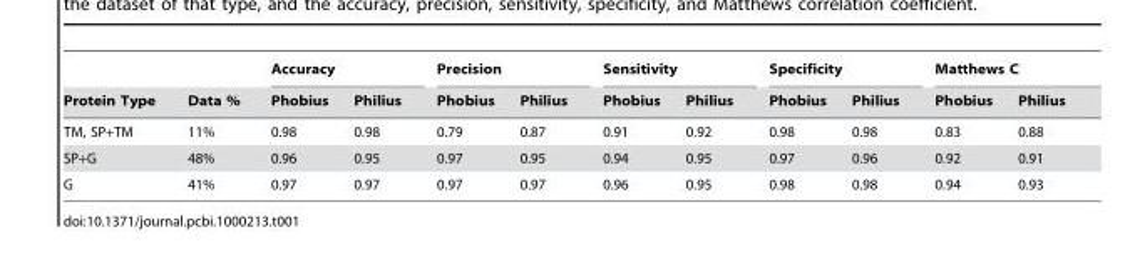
<table><thead><tr><td rowspan="2">Protein Type</td><td rowspan="2">Data %</td><td colspan="2">Accuracy</td><td colspan="2">Precision</td><td colspan="2">Sensitivity</td><td colspan="2">Specificity</td><td colspan="2">Matthews C</td></tr><tr><td>Phobius</td><td>Philius</td><td>Phobius</td><td>Philius</td><td>Phobius</td><td>Philius</td><td>Phobius</td><td>Philius</td><td>Phobius</td><td>Philius</td></tr></thead><tbody><tr><td>TM, SP+TM</td><td>11%</td><td>0.98</td><td>0.98</td><td>0.79</td><td>0.87</td><td>0.91</td><td>0.92</td><td>0.98</td><td>0.98</td><td>0.83</td><td>0.88</td></tr><tr><td>SP+G</td><td>48%</td><td>0.96</td><td>0.95</td><td>0.97</td><td>0.95</td><td>0.94</td><td>0.95</td><td>0.97</td><td>0.96</td><td>0.92</td><td>0.91</td></tr><tr><td>G</td><td>41%</td><td>0.97</td><td>0.97</td><td>0.97</td><td>0.97</td><td>0.96</td><td>0.95</td><td>0.98</td><td>0.98</td><td>0.94</td><td>0.93</td></tr></tbody></table>